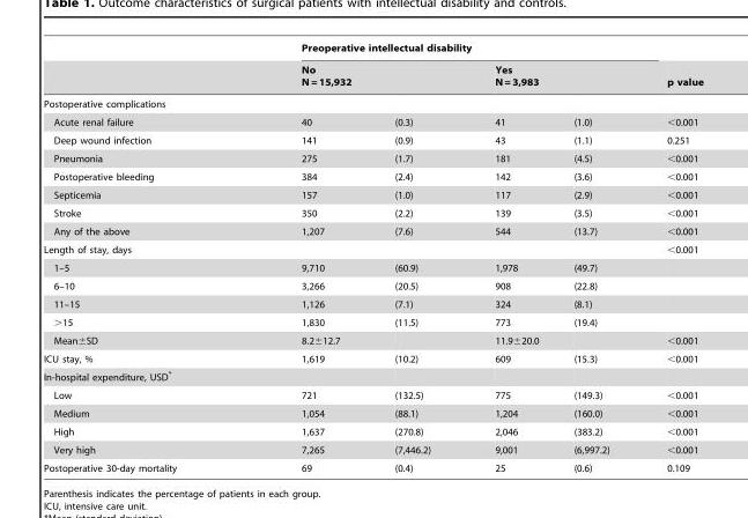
<table><thead><tr><td rowspan="3">Postoperative complications</td><td colspan="4">Preoperative intellectual disability</td><td rowspan="3">p value</td></tr><tr><td colspan="2">No N = 15,932</td><td colspan="2">Yes N = 3,983</td></tr><tr><td></td><td></td><td></td><td></td></tr></thead><tbody><tr><td>Acute renal failure</td><td>40</td><td>(0.3)</td><td>41</td><td>(1.0)</td><td>&lt;0.001</td></tr><tr><td>Deep wound infection</td><td>141</td><td>(0.9)</td><td>43</td><td>(1.1)</td><td>0.251</td></tr><tr><td>Pneumonia</td><td>275</td><td>(1.7)</td><td>181</td><td>(4.5)</td><td>&lt;0.001</td></tr><tr><td>Postoperative bleeding</td><td>384</td><td>(2.4)</td><td>142</td><td>(3.6)</td><td>&lt;0.001</td></tr><tr><td>Septicemia</td><td>157</td><td>(1.0)</td><td>117</td><td>(2.9)</td><td>&lt;0.001</td></tr><tr><td>Stroke</td><td>350</td><td>(2.2)</td><td>139</td><td>(3.5)</td><td>&lt;0.001</td></tr><tr><td>Any of the above</td><td>1,207</td><td>(7.6)</td><td>544</td><td>(13.7)</td><td>&lt;0.001</td></tr><tr><td>Length of stay, days</td><td></td><td></td><td></td><td></td><td>&lt;0.001</td></tr><tr><td>1–5</td><td>9,710</td><td>(60.9)</td><td>1,978</td><td>(49.7)</td><td></td></tr><tr><td>6–10</td><td>3,266</td><td>(20.5)</td><td>908</td><td>(22.8)</td><td></td></tr><tr><td>11–15</td><td>1,126</td><td>(7.1)</td><td>324</td><td>(8.1)</td><td></td></tr><tr><td>&gt;15</td><td>1,830</td><td>(11.5)</td><td>773</td><td>(19.4)</td><td></td></tr><tr><td>Mean±SD</td><td>8.2±12.7</td><td></td><td>11.9±20.0</td><td></td><td>&lt;0.001</td></tr><tr><td>ICU stay, %</td><td>1,619</td><td>(10.2)</td><td>609</td><td>(15.3)</td><td>&lt;0.001</td></tr><tr><td colspan="6">In-hospital expenditure, USD*</td></tr><tr><td>Low</td><td>721</td><td>(132.5)</td><td>775</td><td>(149.3)</td><td>&lt;0.001</td></tr><tr><td>Medium</td><td>1,054</td><td>(88.1)</td><td>1,204</td><td>(160.0)</td><td>&lt;0.001</td></tr><tr><td>High</td><td>1,637</td><td>(270.8)</td><td>2,046</td><td>(383.2)</td><td>&lt;0.001</td></tr><tr><td>Very high</td><td>7,265</td><td>(7,446.2)</td><td>9,001</td><td>(6,997.2)</td><td>&lt;0.001</td></tr><tr><td>Postoperative 30-day mortality</td><td>69</td><td>(0.4)</td><td>25</td><td>(0.6)</td><td>0.109</td></tr></tbody></table>